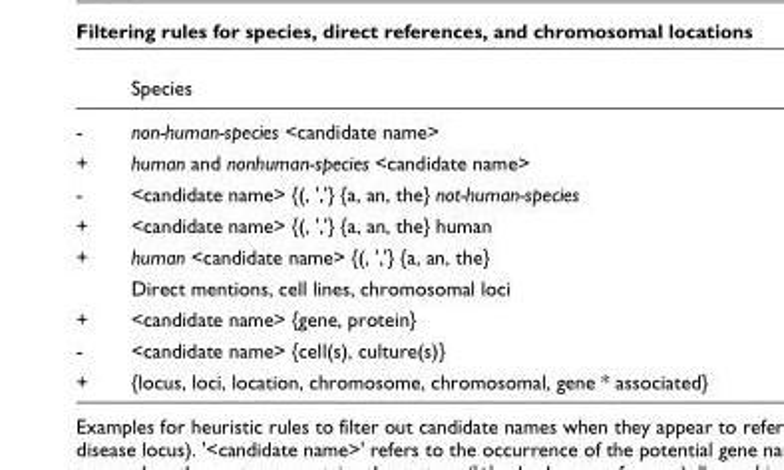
<table><thead><tr><td></td><td>Species</td></tr></thead><tbody><tr><td>-</td><td>non-human-species &lt;candidate name&gt;</td></tr><tr><td>+</td><td>human and nonhuman-species &lt;candidate name&gt;</td></tr><tr><td>-</td><td>&lt;candidate name&gt; {(, &#x27;,&#x27;} {a, an, the} not-human-species</td></tr><tr><td>+</td><td>&lt;candidate name&gt; {(, &#x27;,&#x27;} {a, an, the} human</td></tr><tr><td rowspan="2">+</td><td>human &lt;candidate name&gt; {(, &#x27;,&#x27;} {a, an, the}</td></tr><tr><td>Direct mentions, cell lines, chromosomal loci</td></tr><tr><td>+</td><td>&lt;candidate name&gt; {gene, protein}</td></tr><tr><td>-</td><td>&lt;candidate name&gt; {cell(s), culture(s)}</td></tr><tr><td>+</td><td>{locus, loci, location, chromosome, chromosomal, gene * associated}</td></tr></tbody></table>